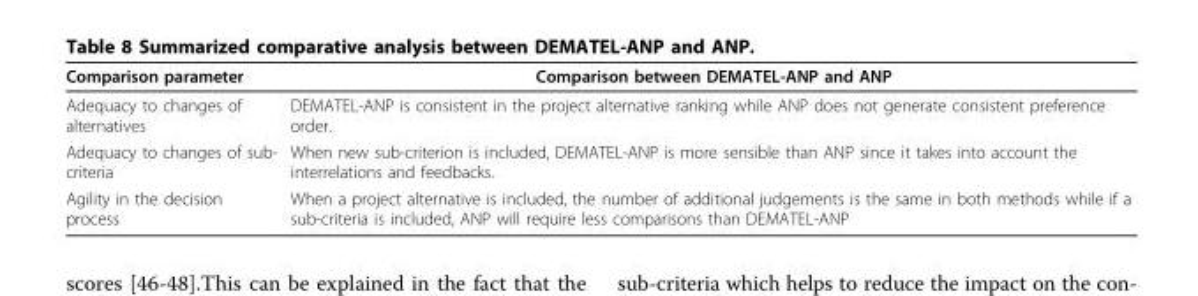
<table><thead><tr><td>Comparison parameter</td><td>Comparison between DEMATEL-ANP and ANP</td></tr></thead><tbody><tr><td>Adequacy to changes of alternatives</td><td>DEMATEL-ANP is consistent in the project alternative ranking while ANP does not generate consistent preference order.</td></tr><tr><td>Adequacy to changes of sub- criteria</td><td>When new sub-criterion is included, DEMATEL-ANP is more sensible than ANP since it takes into account the interrelations and feedbacks.</td></tr><tr><td>Agility in the decision process</td><td>When a project alternative is included, the number of additional judgements is the same in both methods while if a sub-criteria is included, ANP will require less comparisons than DEMATEL-ANP</td></tr></tbody></table>